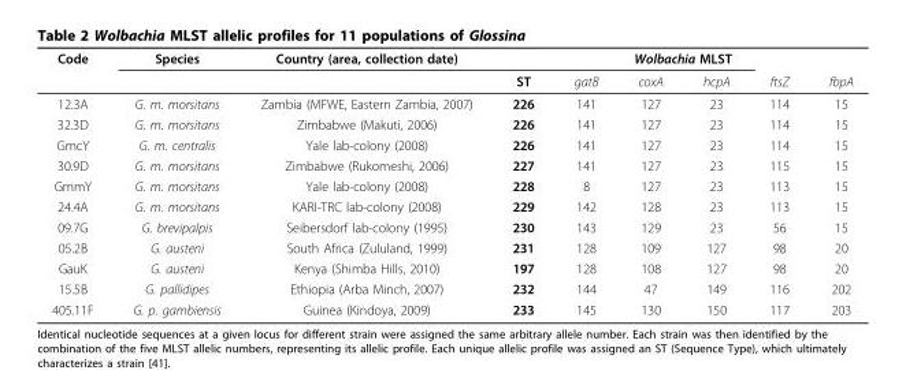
<table><thead><tr><td rowspan="2">Code</td><td rowspan="2">Species</td><td rowspan="2">Country (area, collection date)</td><td colspan="6">Wolbachia MLST</td></tr><tr><td>ST</td><td>gatB</td><td>coxA</td><td>hcpA</td><td>ftsZ</td><td>fbpA</td></tr></thead><tbody><tr><td>12.3A</td><td>G. m. morsitans</td><td>Zambia (MFWE, Eastern Zambia, 2007)</td><td>226</td><td>141</td><td>127</td><td>23</td><td>114</td><td>15</td></tr><tr><td>32.3D</td><td>G. m. morsitans</td><td>Zimbabwe (Makuti, 2006)</td><td>226</td><td>141</td><td>127</td><td>23</td><td>114</td><td>15</td></tr><tr><td>GmcY</td><td>G. m. centralis</td><td>Yale lab-colony (2008)</td><td>226</td><td>141</td><td>127</td><td>23</td><td>114</td><td>15</td></tr><tr><td>30.9D</td><td>G. m. morsitans</td><td>Zimbabwe (Rukomeshi, 2006)</td><td>227</td><td>141</td><td>127</td><td>23</td><td>115</td><td>15</td></tr><tr><td>GmmY</td><td>G. m. morsitans</td><td>Yale lab-colony (2008)</td><td>228</td><td>8</td><td>127</td><td>23</td><td>113</td><td>15</td></tr><tr><td>24.4A</td><td>G. m. morsitans</td><td>KARI-TRC lab-colony (2008)</td><td>229</td><td>142</td><td>128</td><td>23</td><td>113</td><td>15</td></tr><tr><td>09.7G</td><td>G. brevipalpis</td><td>Seibersdorf lab-colony (1995)</td><td>230</td><td>143</td><td>129</td><td>23</td><td>56</td><td>15</td></tr><tr><td>05.2B</td><td>G. austeni</td><td>South Africa (Zululand, 1999)</td><td>231</td><td>128</td><td>109</td><td>127</td><td>98</td><td>20</td></tr><tr><td>GauK</td><td>G. austeni</td><td>Kenya (Shimba Hills, 2010)</td><td>197</td><td>128</td><td>108</td><td>127</td><td>98</td><td>20</td></tr><tr><td>15.5B</td><td>G. pallidipes</td><td>Ethiopia (Arba Minch, 2007)</td><td>232</td><td>144</td><td>47</td><td>149</td><td>116</td><td>202</td></tr><tr><td>405.11F</td><td>G. p. gambiensis</td><td>Guinea (Kindoya, 2009)</td><td>233</td><td>145</td><td>130</td><td>150</td><td>117</td><td>203</td></tr></tbody></table>